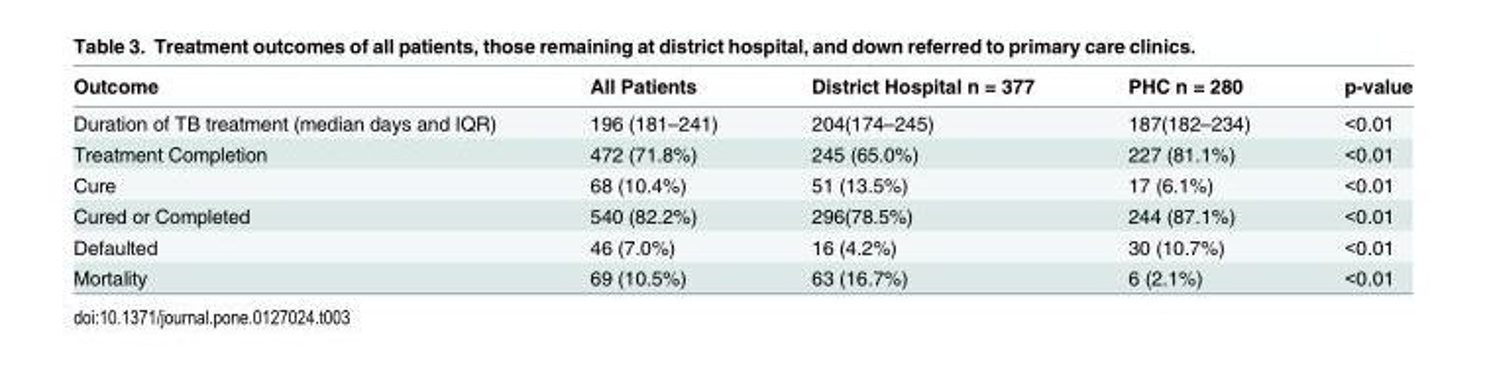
<table><thead><tr><td>Outcome</td><td>All Patients</td><td>District Hospital n = 377</td><td>PHC n = 280</td><td>p-value</td></tr></thead><tbody><tr><td>Duration of TB treatment (median days and IQR)</td><td>196 (181–241)</td><td>204(174–245)</td><td>187(182–234)</td><td>&lt;0.01</td></tr><tr><td>Treatment Completion</td><td>472 (71.8%)</td><td>245 (65.0%)</td><td>227 (81.1%)</td><td>&lt;0.01</td></tr><tr><td>Cure</td><td>68 (10.4%)</td><td>51 (13.5%)</td><td>17 (6.1%)</td><td>&lt;0.01</td></tr><tr><td>Cured or Completed</td><td>540 (82.2%)</td><td>296(78.5%)</td><td>244 (87.1%)</td><td>&lt;0.01</td></tr><tr><td>Defaulted</td><td>46 (7.0%)</td><td>16 (4.2%)</td><td>30 (10.7%)</td><td>&lt;0.01</td></tr><tr><td>Mortality</td><td>69 (10.5%)</td><td>63 (16.7%)</td><td>6 (2.1%)</td><td>&lt;0.01</td></tr></tbody></table>